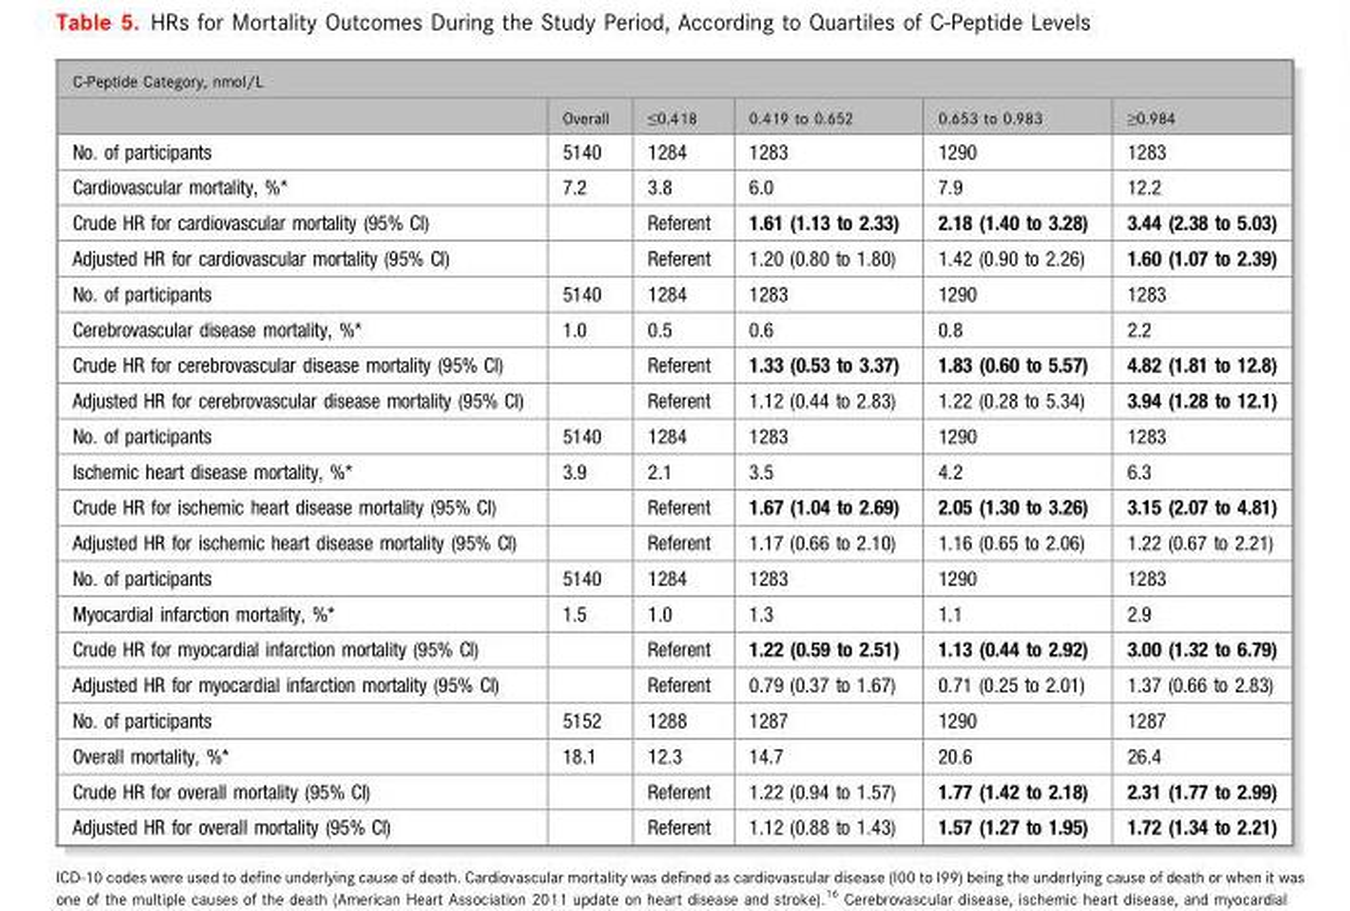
<table><thead><tr><td colspan="6">C-Peptide Category, nmol/L</td></tr><tr><td></td><td>Overall</td><td>≤0.418</td><td>0.419 to 0.652</td><td>0.653 to 0.983</td><td>≥0.984</td></tr></thead><tbody><tr><td>No. of participants</td><td>5140</td><td>1284</td><td>1283</td><td>1290</td><td>1283</td></tr><tr><td>Cardiovascular mortality, %*</td><td>7.2</td><td>3.8</td><td>6.0</td><td>7.9</td><td>12.2</td></tr><tr><td>Crude HR for cardiovascular mortality (95% CI)</td><td></td><td>Referent</td><td>1.61 (1.13 to 2.33)</td><td>2.18 (1.40 to 3.28)</td><td>3.44 (2.38 to 5.03)</td></tr><tr><td>Adjusted HR for cardiovascular mortality (95% CI)</td><td></td><td>Referent</td><td>1.20 (0.80 to 1.80)</td><td>1.42 (0.90 to 2.26)</td><td>1.60 (1.07 to 2.39)</td></tr><tr><td>No. of participants</td><td>5140</td><td>1284</td><td>1283</td><td>1290</td><td>1283</td></tr><tr><td>Cerebrovascular disease mortality, %*</td><td>1.0</td><td>0.5</td><td>0.6</td><td>0.8</td><td>2.2</td></tr><tr><td>Crude HR for cerebrovascular disease mortality (95% CI)</td><td></td><td>Referent</td><td>1.33 (0.53 to 3.37)</td><td>1.83 (0.60 to 5.57)</td><td>4.82 (1.81 to 12.8)</td></tr><tr><td>Adjusted HR for cerebrovascular disease mortality (95% CI)</td><td></td><td>Referent</td><td>1.12 (0.44 to 2.83)</td><td>1.22 (0.28 to 5.34)</td><td>3.94 (1.28 to 12.1)</td></tr><tr><td>No. of participants</td><td>5140</td><td>1284</td><td>1283</td><td>1290</td><td>1283</td></tr><tr><td>Ischemic heart disease mortality, %*</td><td>3.9</td><td>2.1</td><td>3.5</td><td>4.2</td><td>6.3</td></tr><tr><td>Crude HR for ischemic heart disease mortality (95% CI)</td><td></td><td>Referent</td><td>1.67 (1.04 to 2.69)</td><td>2.05 (1.30 to 3.26)</td><td>3.15 (2.07 to 4.81)</td></tr><tr><td>Adjusted HR for ischemic heart disease mortality (95% CI)</td><td></td><td>Referent</td><td>1.17 (0.66 to 2.10)</td><td>1.16 (0.65 to 2.06)</td><td>1.22 (0.67 to 2.21)</td></tr><tr><td>No. of participants</td><td>5140</td><td>1284</td><td>1283</td><td>1290</td><td>1283</td></tr><tr><td>Myocardial infarction mortality, %*</td><td>1.5</td><td>1.0</td><td>1.3</td><td>1.1</td><td>2.9</td></tr><tr><td>Crude HR for myocardial infarction mortality (95% CI)</td><td></td><td>Referent</td><td>1.22 (0.59 to 2.51)</td><td>1.13 (0.44 to 2.92)</td><td>3.00 (1.32 to 6.79)</td></tr><tr><td>Adjusted HR for myocardial infarction mortality (95% CI)</td><td></td><td>Referent</td><td>0.79 (0.37 to 1.67)</td><td>0.71 (0.25 to 2.01)</td><td>1.37 (0.66 to 2.83)</td></tr><tr><td>No. of participants</td><td>5152</td><td>1288</td><td>1287</td><td>1290</td><td>1287</td></tr><tr><td>Overall mortality, %*</td><td>18.1</td><td>12.3</td><td>14.7</td><td>20.6</td><td>26.4</td></tr><tr><td>Crude HR for overall mortality (95% CI)</td><td></td><td>Referent</td><td>1.22 (0.94 to 1.57)</td><td>1.77 (1.42 to 2.18)</td><td>2.31 (1.77 to 2.99)</td></tr><tr><td>Adjusted HR for overall mortality (95% CI)</td><td></td><td>Referent</td><td>1.12 (0.88 to 1.43)</td><td>1.57 (1.27 to 1.95)</td><td>1.72 (1.34 to 2.21)</td></tr></tbody></table>